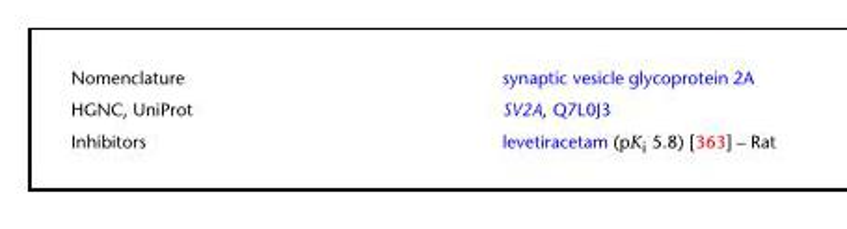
<table><tbody><tr><td>Nomenclature</td><td>synaptic vesicle glycoprotein 2A</td></tr><tr><td>HGNC, UniProt</td><td>SV2A, Q7L0J3</td></tr><tr><td>Inhibitors</td><td>levetiracetam (pK<sub>i</sub> 5.8) [363] – Rat</td></tr></tbody></table>